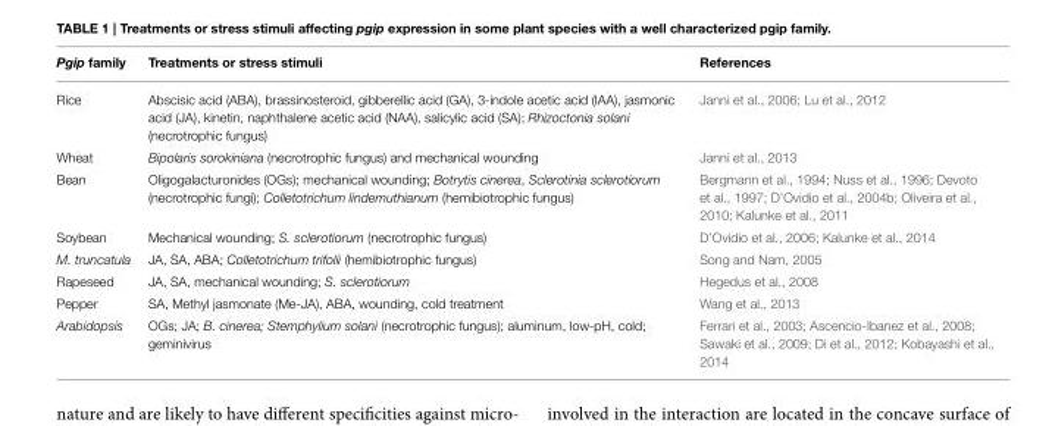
<table><thead><tr><td>Pgip family</td><td>Treatments or stress stimuli</td><td>References</td></tr></thead><tbody><tr><td>Rice</td><td>Abscisic acid (ABA), brassinosteroid, gibberellic acid (GA), 3-indole acetic acid (IAA), jasmonic acid (JA), kinetin, naphthalene acetic acid (NAA), salicylic acid (SA); Rhizoctonia solani (necrotrophic fungus)</td><td>Janni et al., 2006; Lu et al., 2012</td></tr><tr><td>Wheat</td><td>Bipolaris sorokiniana (necrotrophic fungus) and mechanical wounding</td><td>Janni et al., 2013</td></tr><tr><td>Bean</td><td>Oligogalacturonides (OGs); mechanical wounding; Botrytis cinerea, Sclerotinia sclerotiorum (necrotrophic fungi); Colletotrichum lindemuthianum (hemibiotrophic fungus)</td><td>Bergmann et al., 1994; Nuss et al., 1996; Devoto et al., 1997; D’Ovidio et al., 2004b; Oliveira et al., 2010; Kalunke et al., 2011</td></tr><tr><td>Soybean</td><td>Mechanical wounding; S. sclerotiorum (necrotrophic fungus)</td><td>D’Ovidio et al., 2006; Kalunke et al., 2014</td></tr><tr><td>M. truncatula</td><td>JA, SA, ABA; Colletotrichum trifolii (hemibiotrophic fungus)</td><td>Song and Nam, 2005</td></tr><tr><td>Rapeseed</td><td>JA, SA, mechanical wounding; S. sclerotiorum</td><td>Hegedus et al., 2008</td></tr><tr><td>Pepper</td><td>SA, Methyl jasmonate (Me-JA), ABA, wounding, cold treatment</td><td>Wang et al., 2013</td></tr><tr><td>Arabidopsis</td><td>OGs; JA; B. cinerea; Stemphylium solani (necrotrophic fungus); aluminum, low-pH, cold; geminivirus</td><td>Ferrari et al., 2003; Ascencio-Ibanez et al., 2008; Sawaki et al., 2009; Di et al., 2012; Kobayashi et al., 2014</td></tr></tbody></table>